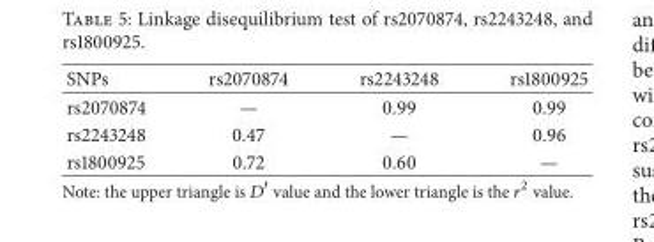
<table><thead><tr><td>SNPs</td><td>rs2070874</td><td>rs2243248</td><td>rs1800925</td></tr></thead><tbody><tr><td>rs2070874</td><td>—</td><td>0.99</td><td>0.99</td></tr><tr><td>rs2243248</td><td>0.47</td><td>—</td><td>0.96</td></tr><tr><td>rs1800925</td><td>0.72</td><td>0.60</td><td>—</td></tr></tbody></table>